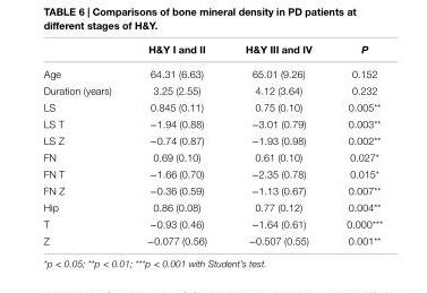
<table><thead><tr><td></td><td>h&amp;Y i and ii</td><td>h&amp;Y iii and iV</td><td>P</td></tr></thead><tbody><tr><td>Age</td><td>64.31 (6.63)</td><td>65.01 (9.26)</td><td>0.152</td></tr><tr><td>Duration (years)</td><td>3.25 (2.55)</td><td>4.12 (3.64)</td><td>0.232</td></tr><tr><td>LS</td><td>0.845 (0.11)</td><td>0.75 (0.10)</td><td>0.005**</td></tr><tr><td>LS T</td><td>−1.94 (0.88)</td><td>−3.01 (0.79)</td><td>0.003**</td></tr><tr><td>LS Z</td><td>−0.74 (0.87)</td><td>−1.93 (0.98)</td><td>0.002**</td></tr><tr><td>FN</td><td>0.69 (0.10)</td><td>0.61 (0.10)</td><td>0.027*</td></tr><tr><td>FN T</td><td>−1.66 (0.70)</td><td>−2.35 (0.78)</td><td>0.015*</td></tr><tr><td>FN Z</td><td>−0.36 (0.59)</td><td>−1.13 (0.67)</td><td>0.007**</td></tr><tr><td>Hip</td><td>0.86 (0.08)</td><td>0.77 (0.12)</td><td>0.004**</td></tr><tr><td>T</td><td>−0.93 (0.46)</td><td>−1.64 (0.61)</td><td>0.000***</td></tr><tr><td>Z</td><td>−0.077 (0.56)</td><td>−0.507 (0.55)</td><td>0.001**</td></tr></tbody></table>